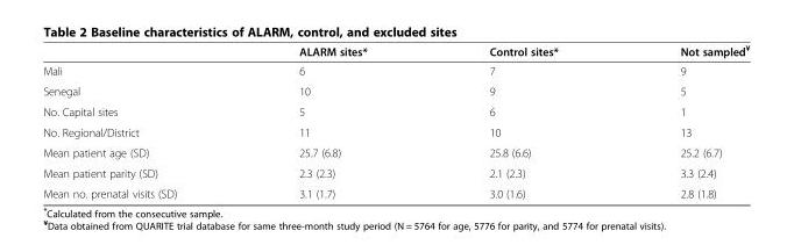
<table><thead><tr><td></td><td>ALARM sites*</td><td>Control sites*</td><td>Not sampled<sup>¥</sup></td></tr></thead><tbody><tr><td>Mali</td><td>6</td><td>7</td><td>9</td></tr><tr><td>Senegal</td><td>10</td><td>9</td><td>5</td></tr><tr><td>No. Capital sites</td><td>5</td><td>6</td><td>1</td></tr><tr><td>No. Regional/District</td><td>11</td><td>10</td><td>13</td></tr><tr><td>Mean patient age (SD)</td><td>25.7 (6.8)</td><td>25.8 (6.6)</td><td>25.2 (6.7)</td></tr><tr><td>Mean patient parity (SD)</td><td>2.3 (2.3)</td><td>2.1 (2.3)</td><td>3.3 (2.4)</td></tr><tr><td>Mean no. prenatal visits (SD)</td><td>3.1 (1.7)</td><td>3.0 (1.6)</td><td>2.8 (1.8)</td></tr></tbody></table>